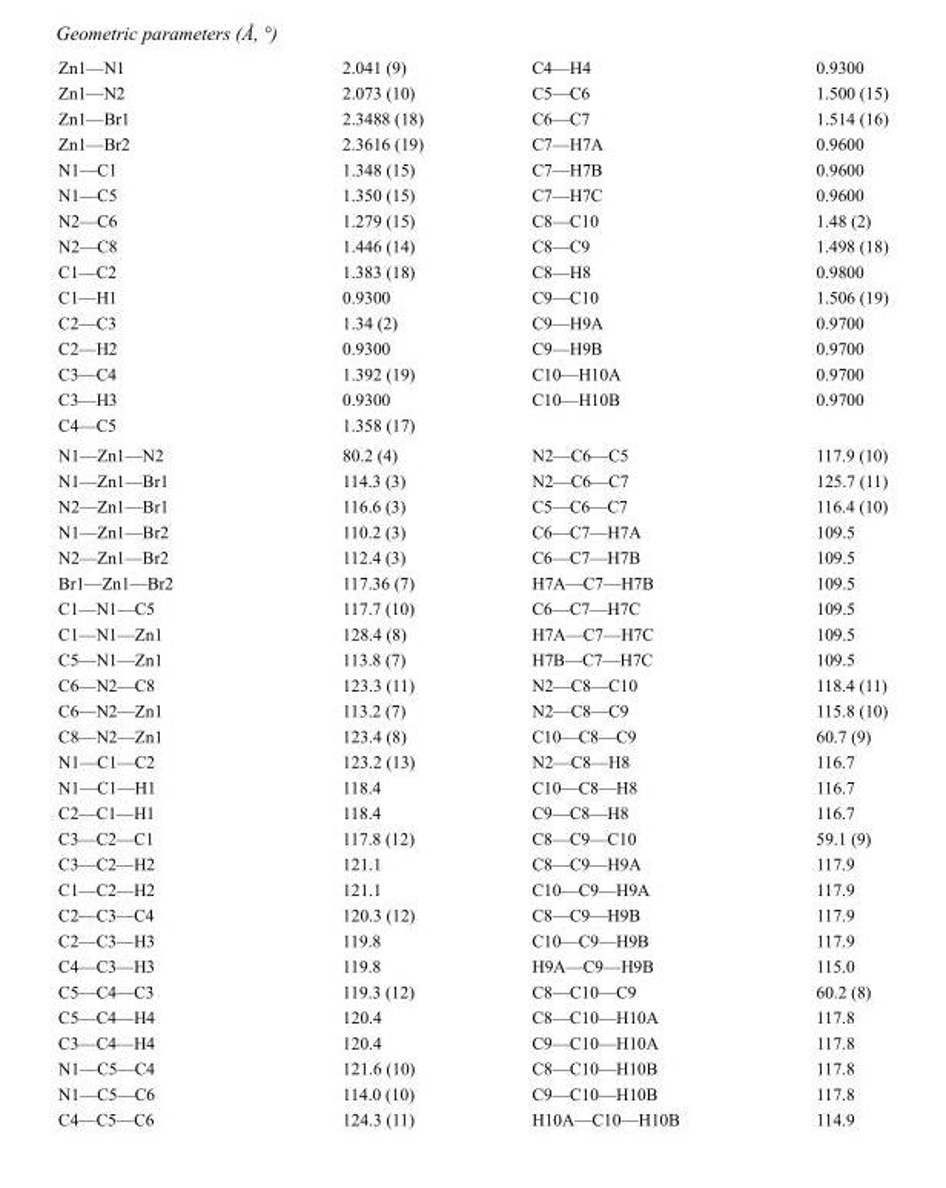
<table><tbody><tr><td>Zn1—N1</td><td>2.041 (9)</td><td>C4—H4</td><td>0.9300</td></tr><tr><td>Zn1—N2</td><td>2.073 (10)</td><td>C5—C6</td><td>1.500 (15)</td></tr><tr><td>Zn1—Br1</td><td>2.3488 (18)</td><td>C6—C7</td><td>1.514 (16)</td></tr><tr><td>Zn1—Br2</td><td>2.3616 (19)</td><td>C7—H7A</td><td>0.9600</td></tr><tr><td>N1—C1</td><td>1.348 (15)</td><td>C7—H7B</td><td>0.9600</td></tr><tr><td>N1—C5</td><td>1.350 (15)</td><td>C7—H7C</td><td>0.9600</td></tr><tr><td>N2—C6</td><td>1.279 (15)</td><td>C8—C10</td><td>1.48 (2)</td></tr><tr><td>N2—C8</td><td>1.446 (14)</td><td>C8—C9</td><td>1.498 (18)</td></tr><tr><td>C1—C2</td><td>1.383 (18)</td><td>C8—H8</td><td>0.9800</td></tr><tr><td>C1—H1</td><td>0.9300</td><td>C9—C10</td><td>1.506 (19)</td></tr><tr><td>C2—C3</td><td>1.34 (2)</td><td>C9—H9A</td><td>0.9700</td></tr><tr><td>C2—H2</td><td>0.9300</td><td>C9—H9B</td><td>0.9700</td></tr><tr><td>C3—C4</td><td>1.392 (19)</td><td>C10—H10A</td><td>0.9700</td></tr><tr><td>C3—H3</td><td>0.9300</td><td>C10—H10B</td><td>0.9700</td></tr><tr><td>C4—C5</td><td>1.358 (17)</td><td></td><td></td></tr><tr><td>N1—Zn1—N2</td><td>80.2 (4)</td><td>N2—C6—C5</td><td>117.9 (10)</td></tr><tr><td>N1—Zn1—Br1</td><td>114.3 (3)</td><td>N2—C6—C7</td><td>125.7 (11)</td></tr><tr><td>N2—Zn1—Br1</td><td>116.6 (3)</td><td>C5—C6—C7</td><td>116.4 (10)</td></tr><tr><td>N1—Zn1—Br2</td><td>110.2 (3)</td><td>C6—C7—H7A</td><td>109.5</td></tr><tr><td>N2—Zn1—Br2</td><td>112.4 (3)</td><td>C6—C7—H7B</td><td>109.5</td></tr><tr><td>Br1—Zn1—Br2</td><td>117.36 (7)</td><td>H7A—C7—H7B</td><td>109.5</td></tr><tr><td>C1—N1—C5</td><td>117.7 (10)</td><td>C6—C7—H7C</td><td>109.5</td></tr><tr><td>C1—N1—Zn1</td><td>128.4 (8)</td><td>H7A—C7—H7C</td><td>109.5</td></tr><tr><td>C5—N1—Zn1</td><td>113.8 (7)</td><td>H7B—C7—H7C</td><td>109.5</td></tr><tr><td>C6—N2—C8</td><td>123.3 (11)</td><td>N2—C8—C10</td><td>118.4 (11)</td></tr><tr><td>C6—N2—Zn1</td><td>113.2 (7)</td><td>N2—C8—C9</td><td>115.8 (10)</td></tr><tr><td>C8—N2—Zn1</td><td>123.4 (8)</td><td>C10—C8—C9</td><td>60.7 (9)</td></tr><tr><td>N1—C1—C2</td><td>123.2 (13)</td><td>N2—C8—H8</td><td>116.7</td></tr><tr><td>N1—C1—H1</td><td>118.4</td><td>C10—C8—H8</td><td>116.7</td></tr><tr><td>C2—C1—H1</td><td>118.4</td><td>C9—C8—H8</td><td>116.7</td></tr><tr><td>C3—C2—C1</td><td>117.8 (12)</td><td>C8—C9—C10</td><td>59.1 (9)</td></tr><tr><td>C3—C2—H2</td><td>121.1</td><td>C8—C9—H9A</td><td>117.9</td></tr><tr><td>C1—C2—H2</td><td>121.1</td><td>C10—C9—H9A</td><td>117.9</td></tr><tr><td>C2—C3—C4</td><td>120.3 (12)</td><td>C8—C9—H9B</td><td>117.9</td></tr><tr><td>C2—C3—H3</td><td>119.8</td><td>C10—C9—H9B</td><td>117.9</td></tr><tr><td>C4—C3—H3</td><td>119.8</td><td>H9A—C9—H9B</td><td>115.0</td></tr><tr><td>C5—C4—C3</td><td>119.3 (12)</td><td>C8—C10—C9</td><td>60.2 (8)</td></tr><tr><td>C5—C4—H4</td><td>120.4</td><td>C8—C10—H10A</td><td>117.8</td></tr><tr><td>C3—C4—H4</td><td>120.4</td><td>C9—C10—H10A</td><td>117.8</td></tr><tr><td>N1—C5—C4</td><td>121.6 (10)</td><td>C8—C10—H10B</td><td>117.8</td></tr><tr><td>N1—C5—C6</td><td>114.0 (10)</td><td>C9—C10—H10B</td><td>117.8</td></tr><tr><td>C4—C5—C6</td><td>124.3 (11)</td><td>H10A—C10—H10B</td><td>114.9</td></tr></tbody></table>